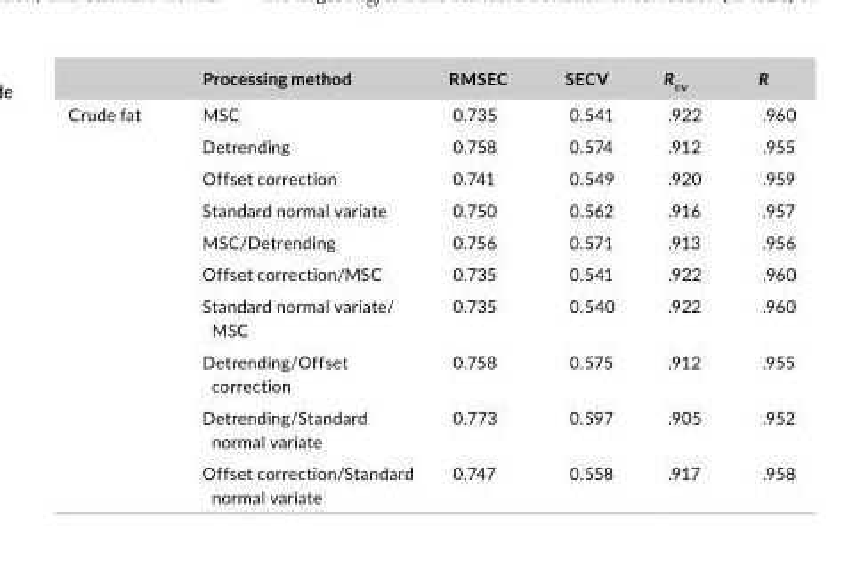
<table><thead><tr><td></td><td>Processing method</td><td>RMSEC</td><td>SECV</td><td>R<sub>cv</sub></td><td>R</td></tr></thead><tbody><tr><td rowspan="10">Crude fat</td><td>MSC</td><td>0.735</td><td>0.541</td><td>.922</td><td>.960</td></tr><tr><td>Detrending</td><td>0.758</td><td>0.574</td><td>.912</td><td>.955</td></tr><tr><td>Offset correction</td><td>0.741</td><td>0.549</td><td>.920</td><td>.959</td></tr><tr><td>Standard normal variate</td><td>0.750</td><td>0.562</td><td>.916</td><td>.957</td></tr><tr><td>MSC/Detrending</td><td>0.756</td><td>0.571</td><td>.913</td><td>.956</td></tr><tr><td>Offset correction/MSC</td><td>0.735</td><td>0.541</td><td>.922</td><td>.960</td></tr><tr><td>Standard normal variate/ MSC</td><td>0.735</td><td>0.540</td><td>.922</td><td>.960</td></tr><tr><td>Detrending/Offset correction</td><td>0.758</td><td>0.575</td><td>.912</td><td>.955</td></tr><tr><td>Detrending/Standard normal variate</td><td>0.773</td><td>0.597</td><td>.905</td><td>.952</td></tr><tr><td>Offset correction/Standard normal variate</td><td>0.747</td><td>0.558</td><td>.917</td><td>.958</td></tr></tbody></table>